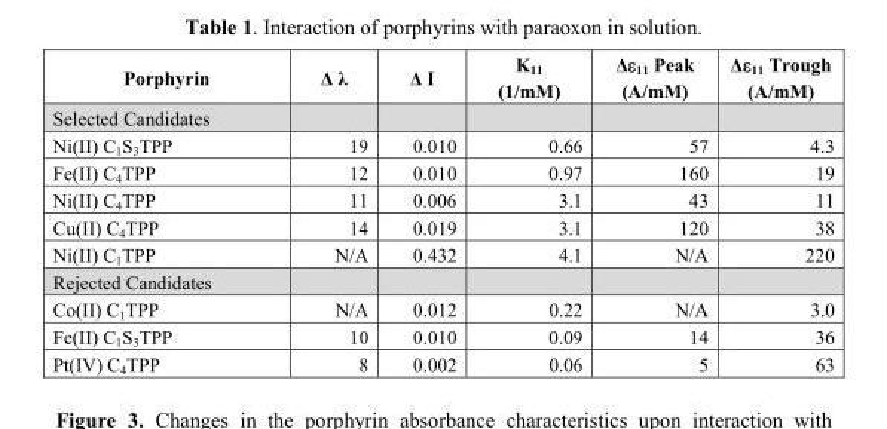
<table><thead><tr><td>Porphyrin</td><td>Δ λ</td><td>Δ I</td><td>K<sub>11</sub> (1/mM)</td><td>Δε<sub>11</sub> Peak (A/mM)</td><td>Δε<sub>11</sub> Trough (A/mM)</td></tr></thead><tbody><tr><td colspan="6">Selected Candidates</td></tr><tr><td>Ni(II) C<sub>1</sub>S<sub>3</sub>TPP</td><td>19</td><td>0.010</td><td>0.66</td><td>57</td><td>4.3</td></tr><tr><td>Fe(II) C<sub>4</sub>TPP</td><td>12</td><td>0.010</td><td>0.97</td><td>160</td><td>19</td></tr><tr><td>Ni(II) C<sub>4</sub>TPP</td><td>11</td><td>0.006</td><td>3.1</td><td>43</td><td>11</td></tr><tr><td>Cu(II) C<sub>4</sub>TPP</td><td>14</td><td>0.019</td><td>3.1</td><td>120</td><td>38</td></tr><tr><td>Ni(II) C<sub>1</sub>TPP</td><td>N/A</td><td>0.432</td><td>4.1</td><td>N/A</td><td>220</td></tr><tr><td colspan="6">Rejected Candidates</td></tr><tr><td>Co(II) C<sub>1</sub>TPP</td><td>N/A</td><td>0.012</td><td>0.22</td><td>N/A</td><td>3.0</td></tr><tr><td>Fe(II) C<sub>1</sub>S<sub>3</sub>TPP</td><td>10</td><td>0.010</td><td>0.09</td><td>14</td><td>36</td></tr><tr><td>Pt(IV) C<sub>4</sub>TPP</td><td>8</td><td>0.002</td><td>0.06</td><td>5</td><td>63</td></tr></tbody></table>